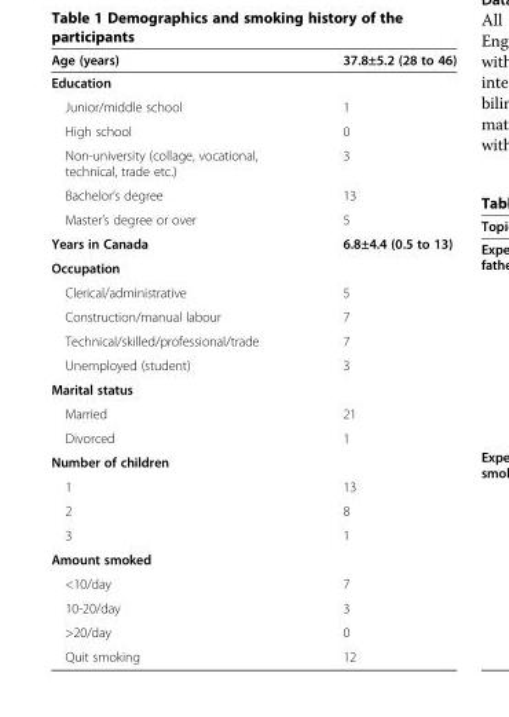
<table><thead><tr><td>Age (years)</td><td>37.8±5.2 (28 to 46)</td></tr></thead><tbody><tr><td colspan="2">Education</td></tr><tr><td>Junior/middle school</td><td>1</td></tr><tr><td>High school</td><td>0</td></tr><tr><td>Non-university (collage, vocational, technical, trade etc.)</td><td>3</td></tr><tr><td>Bachelor’s degree</td><td>13</td></tr><tr><td>Master’s degree or over</td><td>5</td></tr><tr><td>Years in Canada</td><td>6.8±4.4 (0.5 to 13)</td></tr><tr><td colspan="2">Occupation</td></tr><tr><td>Clerical/administrative</td><td>5</td></tr><tr><td>Construction/manual labour</td><td>7</td></tr><tr><td>Technical/skilled/professional/trade</td><td>7</td></tr><tr><td>Unemployed (student)</td><td>3</td></tr><tr><td colspan="2">Marital status</td></tr><tr><td>Married</td><td>21</td></tr><tr><td>Divorced</td><td>1</td></tr><tr><td colspan="2">Number of children</td></tr><tr><td>1</td><td>13</td></tr><tr><td>2</td><td>8</td></tr><tr><td>3</td><td>1</td></tr><tr><td colspan="2">Amount smoked</td></tr><tr><td>&lt;10/day</td><td>7</td></tr><tr><td>10-20/day</td><td>3</td></tr><tr><td>&gt;20/day</td><td>0</td></tr><tr><td>Quit smoking</td><td>12</td></tr></tbody></table>